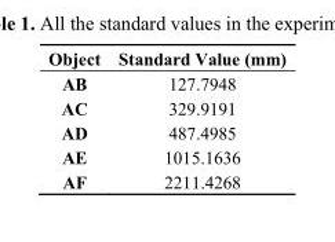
<table><thead><tr><td>Object</td><td>Standard Value (mm)</td></tr></thead><tbody><tr><td>AB</td><td>127.7948</td></tr><tr><td>AC</td><td>329.9191</td></tr><tr><td>AD</td><td>487.4985</td></tr><tr><td>AE</td><td>1015.1636</td></tr><tr><td>AF</td><td>2211.4268</td></tr></tbody></table>